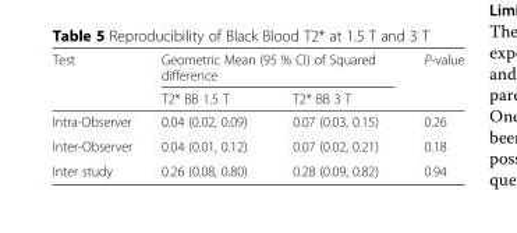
<table><thead><tr><td rowspan="2">Test</td><td colspan="2">Geometric Mean (95 % CI) of Squared difference</td><td rowspan="2">P-value</td></tr><tr><td>T2* BB 1.5 T</td><td>T2* BB 3 T</td></tr></thead><tbody><tr><td>Intra-Observer</td><td>0.04 (0.02, 0.09)</td><td>0.07 (0.03, 0.15)</td><td>0.26</td></tr><tr><td>Inter-Observer</td><td>0.04 (0.01, 0.12)</td><td>0.07 (0.02, 0.21)</td><td>0.18</td></tr><tr><td>Inter study</td><td>0.26 (0.08, 0.80)</td><td>0.28 (0.09, 0.82)</td><td>0.94</td></tr></tbody></table>